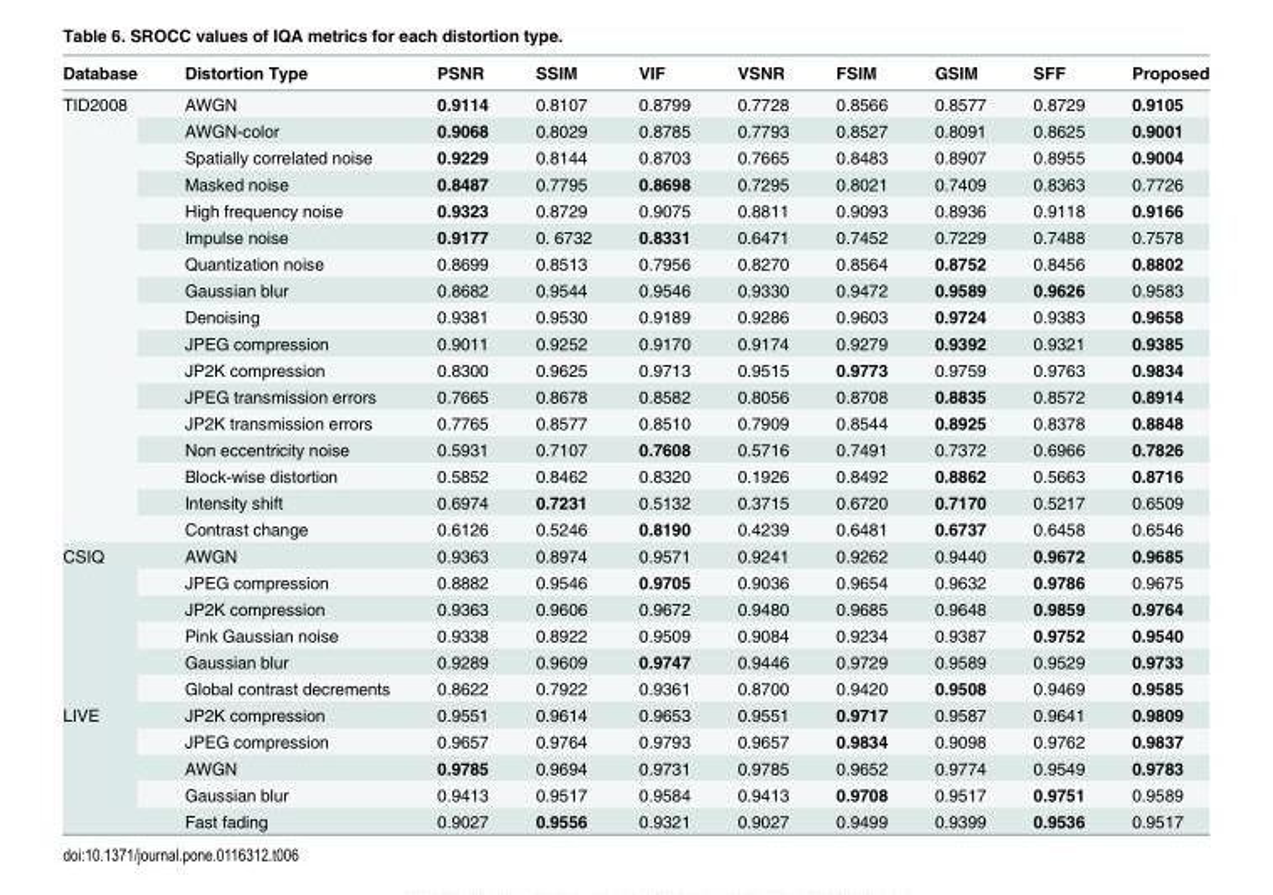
<table><thead><tr><td>Database</td><td>Distortion Type</td><td>PSNR</td><td>SSIM</td><td>VIF</td><td>VSNR</td><td>FSIM</td><td>GSIM</td><td>SFF</td><td>Proposed</td></tr></thead><tbody><tr><td rowspan="17">TID2008</td><td>AWGN</td><td>0.9114</td><td>0.8107</td><td>0.8799</td><td>0.7728</td><td>0.8566</td><td>0.8577</td><td>0.8729</td><td>0.9105</td></tr><tr><td>AWGN-color</td><td>0.9068</td><td>0.8029</td><td>0.8785</td><td>0.7793</td><td>0.8527</td><td>0.8091</td><td>0.8625</td><td>0.9001</td></tr><tr><td>Spatially correlated noise</td><td>0.9229</td><td>0.8144</td><td>0.8703</td><td>0.7665</td><td>0.8483</td><td>0.8907</td><td>0.8955</td><td>0.9004</td></tr><tr><td>Masked noise</td><td>0.8487</td><td>0.7795</td><td>0.8698</td><td>0.7295</td><td>0.8021</td><td>0.7409</td><td>0.8363</td><td>0.7726</td></tr><tr><td>High frequency noise</td><td>0.9323</td><td>0.8729</td><td>0.9075</td><td>0.8811</td><td>0.9093</td><td>0.8936</td><td>0.9118</td><td>0.9166</td></tr><tr><td>Impulse noise</td><td>0.9177</td><td>0. 6732</td><td>0.8331</td><td>0.6471</td><td>0.7452</td><td>0.7229</td><td>0.7488</td><td>0.7578</td></tr><tr><td>Quantization noise</td><td>0.8699</td><td>0.8513</td><td>0.7956</td><td>0.8270</td><td>0.8564</td><td>0.8752</td><td>0.8456</td><td>0.8802</td></tr><tr><td>Gaussian blur</td><td>0.8682</td><td>0.9544</td><td>0.9546</td><td>0.9330</td><td>0.9472</td><td>0.9589</td><td>0.9626</td><td>0.9583</td></tr><tr><td>Denoising</td><td>0.9381</td><td>0.9530</td><td>0.9189</td><td>0.9286</td><td>0.9603</td><td>0.9724</td><td>0.9383</td><td>0.9658</td></tr><tr><td>JPEG compression</td><td>0.9011</td><td>0.9252</td><td>0.9170</td><td>0.9174</td><td>0.9279</td><td>0.9392</td><td>0.9321</td><td>0.9385</td></tr><tr><td>JP2K compression</td><td>0.8300</td><td>0.9625</td><td>0.9713</td><td>0.9515</td><td>0.9773</td><td>0.9759</td><td>0.9763</td><td>0.9834</td></tr><tr><td>JPEG transmission errors</td><td>0.7665</td><td>0.8678</td><td>0.8582</td><td>0.8056</td><td>0.8708</td><td>0.8835</td><td>0.8572</td><td>0.8914</td></tr><tr><td>JP2K transmission errors</td><td>0.7765</td><td>0.8577</td><td>0.8510</td><td>0.7909</td><td>0.8544</td><td>0.8925</td><td>0.8378</td><td>0.8848</td></tr><tr><td>Non eccentricity noise</td><td>0.5931</td><td>0.7107</td><td>0.7608</td><td>0.5716</td><td>0.7491</td><td>0.7372</td><td>0.6966</td><td>0.7826</td></tr><tr><td>Block-wise distortion</td><td>0.5852</td><td>0.8462</td><td>0.8320</td><td>0.1926</td><td>0.8492</td><td>0.8862</td><td>0.5663</td><td>0.8716</td></tr><tr><td>Intensity shift</td><td>0.6974</td><td>0.7231</td><td>0.5132</td><td>0.3715</td><td>0.6720</td><td>0.7170</td><td>0.5217</td><td>0.6509</td></tr><tr><td>Contrast change</td><td>0.6126</td><td>0.5246</td><td>0.8190</td><td>0.4239</td><td>0.6481</td><td>0.6737</td><td>0.6458</td><td>0.6546</td></tr><tr><td rowspan="6">CSIQ</td><td>AWGN</td><td>0.9363</td><td>0.8974</td><td>0.9571</td><td>0.9241</td><td>0.9262</td><td>0.9440</td><td>0.9672</td><td>0.9685</td></tr><tr><td>JPEG compression</td><td>0.8882</td><td>0.9546</td><td>0.9705</td><td>0.9036</td><td>0.9654</td><td>0.9632</td><td>0.9786</td><td>0.9675</td></tr><tr><td>JP2K compression</td><td>0.9363</td><td>0.9606</td><td>0.9672</td><td>0.9480</td><td>0.9685</td><td>0.9648</td><td>0.9859</td><td>0.9764</td></tr><tr><td>Pink Gaussian noise</td><td>0.9338</td><td>0.8922</td><td>0.9509</td><td>0.9084</td><td>0.9234</td><td>0.9387</td><td>0.9752</td><td>0.9540</td></tr><tr><td>Gaussian blur</td><td>0.9289</td><td>0.9609</td><td>0.9747</td><td>0.9446</td><td>0.9729</td><td>0.9589</td><td>0.9529</td><td>0.9733</td></tr><tr><td>Global contrast decrements</td><td>0.8622</td><td>0.7922</td><td>0.9361</td><td>0.8700</td><td>0.9420</td><td>0.9508</td><td>0.9469</td><td>0.9585</td></tr><tr><td rowspan="5">LIVE</td><td>JP2K compression</td><td>0.9551</td><td>0.9614</td><td>0.9653</td><td>0.9551</td><td>0.9717</td><td>0.9587</td><td>0.9641</td><td>0.9809</td></tr><tr><td>JPEG compression</td><td>0.9657</td><td>0.9764</td><td>0.9793</td><td>0.9657</td><td>0.9834</td><td>0.9098</td><td>0.9762</td><td>0.9837</td></tr><tr><td>AWGN</td><td>0.9785</td><td>0.9694</td><td>0.9731</td><td>0.9785</td><td>0.9652</td><td>0.9774</td><td>0.9549</td><td>0.9783</td></tr><tr><td>Gaussian blur</td><td>0.9413</td><td>0.9517</td><td>0.9584</td><td>0.9413</td><td>0.9708</td><td>0.9517</td><td>0.9751</td><td>0.9589</td></tr><tr><td>Fast fading</td><td>0.9027</td><td>0.9556</td><td>0.9321</td><td>0.9027</td><td>0.9499</td><td>0.9399</td><td>0.9536</td><td>0.9517</td></tr></tbody></table>